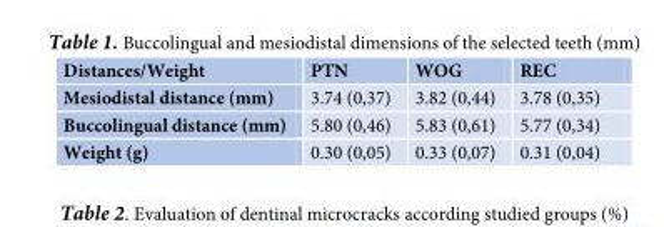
<table><thead><tr><td>Distances/Weight</td><td>PTN</td><td>WOG</td><td>REC</td></tr></thead><tbody><tr><td>Mesiodistal distance (mm)</td><td>3.74 (0,37)</td><td>3.82 (0,44)</td><td>3.78 (0,35)</td></tr><tr><td>Buccolingual distance (mm)</td><td>5.80 (0,46)</td><td>5.83 (0,61)</td><td>5.77 (0,34)</td></tr><tr><td>Weight (g)</td><td>0.30 (0,05)</td><td>0.33 (0,07)</td><td>0.31 (0,04)</td></tr></tbody></table>